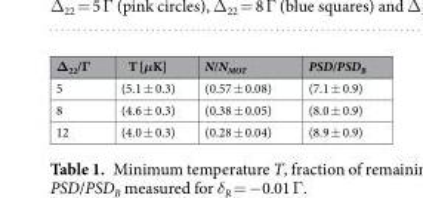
<table><thead><tr><td>Δ<sub>22</sub>/Γ</td><td>T [μK]</td><td>N/N<sub>MOT</sub></td><td>PSD/PSD<sub>B</sub></td></tr></thead><tbody><tr><td>5</td><td>(5.1 ± 0.3)</td><td>(0.57 ± 0.08)</td><td>(7.1 ± 0.9)</td></tr><tr><td>8</td><td>(4.6 ± 0.3)</td><td>(0.38 ± 0.05)</td><td>(8.0 ± 0.9)</td></tr><tr><td>12</td><td>(4.0 ± 0.3)</td><td>(0.28 ± 0.04)</td><td>(8.9 ± 0.9)</td></tr></tbody></table>